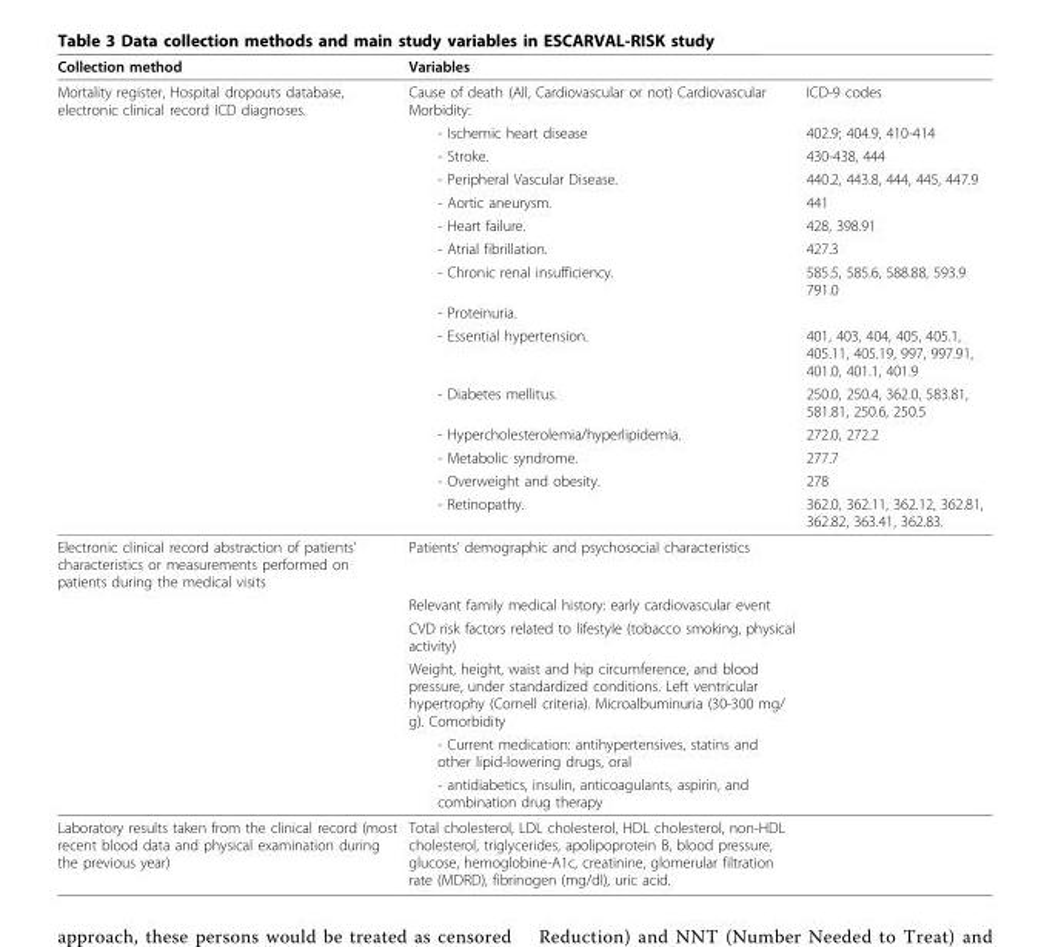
<table><thead><tr><td>Collection method</td><td>Variables</td><td></td></tr></thead><tbody><tr><td rowspan="15">Mortality register, Hospital dropouts database, electronic clinical record ICD diagnoses.</td><td>Cause of death (All, Cardiovascular or not) Cardiovascular Morbidity:</td><td>ICD-9 codes</td></tr><tr><td>- Ischemic heart disease</td><td>402.9; 404.9, 410-414</td></tr><tr><td>- Stroke.</td><td>430-438, 444</td></tr><tr><td>- Peripheral Vascular Disease.</td><td>440.2, 443.8, 444, 445, 447.9</td></tr><tr><td>- Aortic aneurysm.</td><td>441</td></tr><tr><td>- Heart failure.</td><td>428, 398.91</td></tr><tr><td>- Atrial fibrillation.</td><td>427.3</td></tr><tr><td>- Chronic renal insufficiency.</td><td>585.5, 585.6, 588.88, 593.9 791.0</td></tr><tr><td>- Proteinuria.</td><td></td></tr><tr><td>- Essential hypertension.</td><td>401, 403, 404, 405, 405.1, 405.11, 405.19, 997, 997.91, 401.0, 401.1, 401.9</td></tr><tr><td>- Diabetes mellitus.</td><td>250.0, 250.4, 362.0, 583.81, 581.81, 250.6, 250.5</td></tr><tr><td>- Hypercholesterolemia/hyperlipidemia.</td><td>272.0, 272.2</td></tr><tr><td>- Metabolic syndrome.</td><td>277.7</td></tr><tr><td>- Overweight and obesity.</td><td>278</td></tr><tr><td>- Retinopathy.</td><td>362.0, 362.11, 362.12, 362.81, 362.82, 363.41, 362.83.</td></tr><tr><td rowspan="6">Electronic clinical record abstraction of patients’ characteristics or measurements performed on patients during the medical visits</td><td>Patients’ demographic and psychosocial characteristics</td><td></td></tr><tr><td>Relevant family medical history: early cardiovascular event</td><td></td></tr><tr><td>CVD risk factors related to lifestyle (tobacco smoking, physical activity)</td><td></td></tr><tr><td>Weight, height, waist and hip circumference, and blood pressure, under standardized conditions. Left ventricular hypertrophy (Cornell criteria). Microalbuminuria (30-300 mg/ g). Comorbidity</td><td></td></tr><tr><td>- Current medication: antihypertensives, statins and other lipid-lowering drugs, oral</td><td></td></tr><tr><td>- antidiabetics, insulin, anticoagulants, aspirin, and combination drug therapy</td><td></td></tr><tr><td>Laboratory results taken from the clinical record (most recent blood data and physical examination during the previous year)</td><td>Total cholesterol, LDL cholesterol, HDL cholesterol, non-HDL cholesterol, triglycerides, apolipoprotein B, blood pressure, glucose, hemoglobine-A1c, creatinine, glomerular filtration rate (MDRD), fibrinogen (mg/dl), uric acid.</td><td></td></tr></tbody></table>